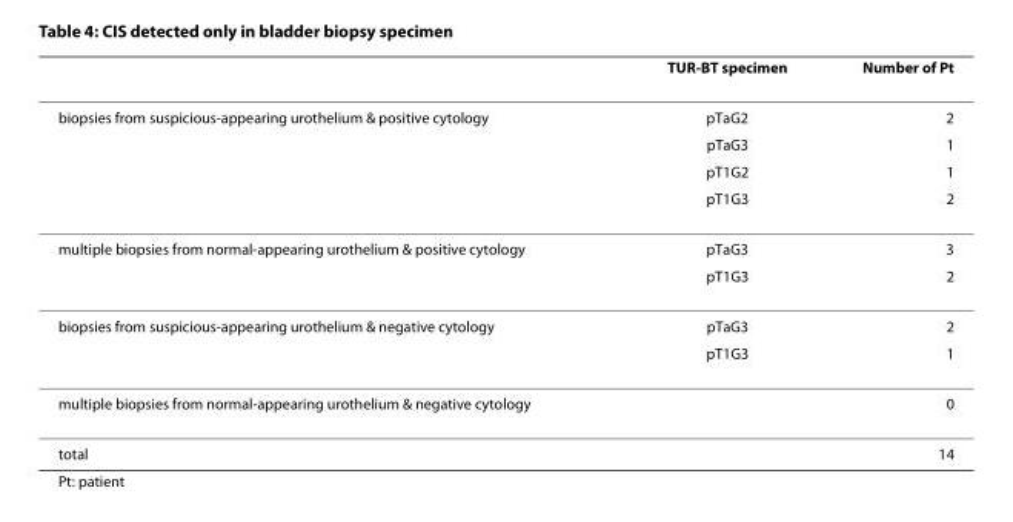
<table><thead><tr><td></td><td>TUR-BT specimen</td><td>Number of Pt</td></tr></thead><tbody><tr><td rowspan="4">biopsies from suspicious-appearing urothelium &amp; positive cytology</td><td>pTaG2</td><td>2</td></tr><tr><td>pTaG3</td><td>1</td></tr><tr><td>pT1G2</td><td>1</td></tr><tr><td>pT1G3</td><td>2</td></tr><tr><td rowspan="2">multiple biopsies from normal-appearing urothelium &amp; positive cytology</td><td>pTaG3</td><td>3</td></tr><tr><td>pT1G3</td><td>2</td></tr><tr><td rowspan="2">biopsies from suspicious-appearing urothelium &amp; negative cytology</td><td>pTaG3</td><td>2</td></tr><tr><td>pT1G3</td><td>1</td></tr><tr><td>multiple biopsies from normal-appearing urothelium &amp; negative cytology</td><td></td><td>0</td></tr><tr><td>total</td><td></td><td>14</td></tr></tbody></table>